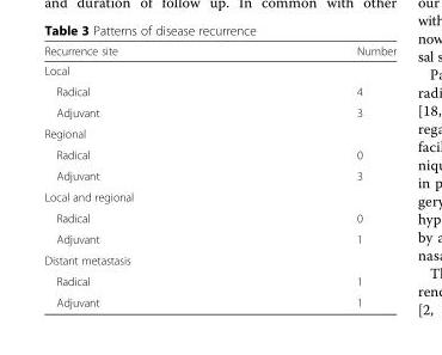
<table><thead><tr><td>Recurrence site</td><td>Number</td></tr></thead><tbody><tr><td colspan="2">Local</td></tr><tr><td>Radical</td><td>4</td></tr><tr><td>Adjuvant</td><td>3</td></tr><tr><td colspan="2">Regional</td></tr><tr><td>Radical</td><td>0</td></tr><tr><td>Adjuvant</td><td>3</td></tr><tr><td colspan="2">Local and regional</td></tr><tr><td>Radical</td><td>0</td></tr><tr><td>Adjuvant</td><td>1</td></tr><tr><td colspan="2">Distant metastasis</td></tr><tr><td>Radical</td><td>1</td></tr><tr><td>Adjuvant</td><td>1</td></tr></tbody></table>